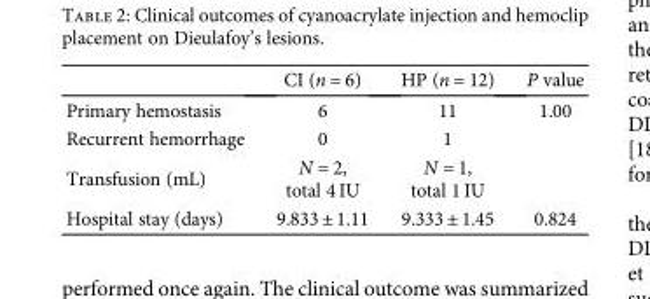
<table><thead><tr><td></td><td>CI (n = 6)</td><td>HP (n = 12)</td><td>P value</td></tr></thead><tbody><tr><td>Primary hemostasis</td><td>6</td><td>11</td><td>1.00</td></tr><tr><td>Recurrent hemorrhage</td><td>0</td><td>1</td><td></td></tr><tr><td>Transfusion (mL)</td><td>N = 2, total 4 IU</td><td>N = 1, total 1 IU</td><td></td></tr><tr><td>Hospital stay (days)</td><td>9.833 ± 1.11</td><td>9.333 ± 1.45</td><td>0.824</td></tr></tbody></table>